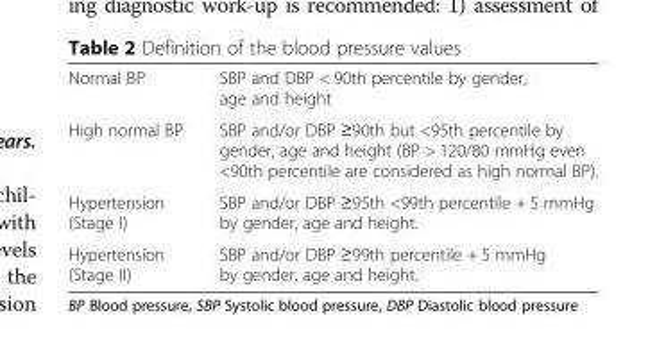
<table><tbody><tr><td>Normal BP</td><td>SBP and DBP &lt; 90th percentile by gender, age and height</td></tr><tr><td>High normal BP</td><td>SBP and/or DBP ≥90th but &lt;95th percentile by gender, age and height (BP &gt; 120/80 mmHg even &lt;90th percentile are considered as high normal BP).</td></tr><tr><td>Hypertension (Stage I)</td><td>SBP and/or DBP ≥95th &lt;99th percentile + 5 mmHg by gender, age and height.</td></tr><tr><td>Hypertension (Stage II)</td><td>SBP and/or DBP ≥99th percentile + 5 mmHg by gender, age and height.</td></tr></tbody></table>